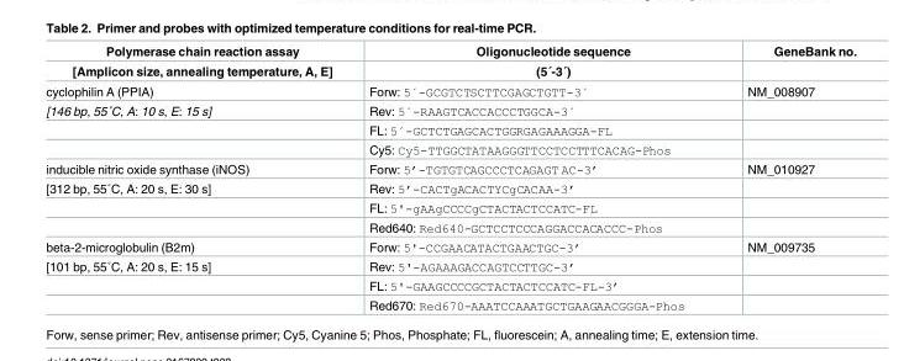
<table><thead><tr><td rowspan="2">Polymerase chain reaction assay [Amplicon size, annealing temperature, A, E]</td><td rowspan="2">Oligonucleotide sequence (5´-3´)</td><td rowspan="2">GeneBank no.</td></tr><tr></tr></thead><tbody><tr><td>cyclophilin A (PPIA)</td><td>Forw: 5´-GCGTCTSCTTCGAGCTGTT-3´</td><td>NM_008907</td></tr><tr><td rowspan="3">[146 bp, 55˚C, A: 10 s, E: 15 s]</td><td>Rev: 5´-RAAGTCACCACCCTGGCA-3´</td><td></td></tr><tr><td>FL: 5´-GCTCTGAGCACTGGRGAGAAAGGA-FL</td><td></td></tr><tr><td>Cy5: Cy5-TTGGCTATAAGGGTTCCTCCTTTCACAG-Phos</td><td></td></tr><tr><td>inducible nitric oxide synthase (iNOS)</td><td>Forw: 5’-TGTGTCAGCCCTCAGAGT AC-3’</td><td>NM_010927</td></tr><tr><td rowspan="3">[312 bp, 55˚C, A: 20 s, E: 30 s]</td><td>Rev: 5’-CACTgACACTYCgCACAA-3’</td><td></td></tr><tr><td>FL: 5&#x27;-gAAgCCCCgCTACTACTCCATC-FL</td><td></td></tr><tr><td>Red640: Red640-GCTCCTCCCAGGACCACACCC-Phos</td><td></td></tr><tr><td>beta-2-microglobulin (B2m)</td><td>Forw: 5&#x27;-CCGAACATACTGAACTGC-3’</td><td>NM_009735</td></tr><tr><td rowspan="3">[101 bp, 55˚C, A: 20 s, E: 15 s]</td><td>Rev: 5&#x27;-AGAAAGACCAGTCCTTGC-3’</td><td></td></tr><tr><td>FL: 5&#x27;-GAAGCCCCGCTACTACTCCATC-FL-3’</td><td></td></tr><tr><td>Red670: Red670-AAATCCAAATGCTGAAGAACGGGA-Phos</td><td></td></tr></tbody></table>